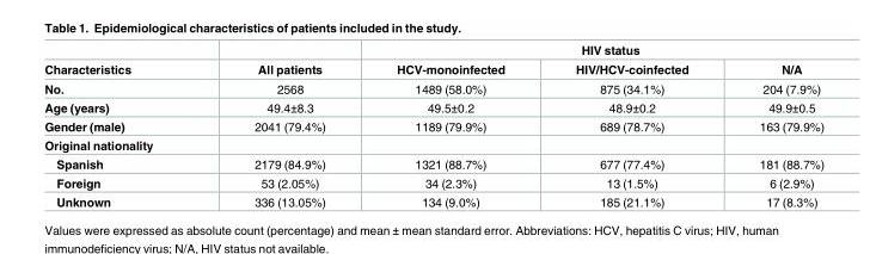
<table><thead><tr><td rowspan="2">Characteristics</td><td rowspan="2">All patients</td><td colspan="3">HIV status</td></tr><tr><td>HCV-monoinfected</td><td>HIV/HCV-coinfected</td><td>N/A</td></tr></thead><tbody><tr><td>No.</td><td>2568</td><td>1489 (58.0%)</td><td>875 (34.1%)</td><td>204 (7.9%)</td></tr><tr><td>Age (years)</td><td>49.4±8.3</td><td>49.5±0.2</td><td>48.9±0.2</td><td>49.9±0.5</td></tr><tr><td>Gender (male)</td><td>2041 (79.4%)</td><td>1189 (79.9%)</td><td>689 (78.7%)</td><td>163 (79.9%)</td></tr><tr><td colspan="5">Original nationality</td></tr><tr><td>Spanish</td><td>2179 (84.9%)</td><td>1321 (88.7%)</td><td>677 (77.4%)</td><td>181 (88.7%)</td></tr><tr><td>Foreign</td><td>53 (2.05%)</td><td>34 (2.3%)</td><td>13 (1.5%)</td><td>6 (2.9%)</td></tr><tr><td>Unknown</td><td>336 (13.05%)</td><td>134 (9.0%)</td><td>185 (21.1%)</td><td>17 (8.3%)</td></tr></tbody></table>